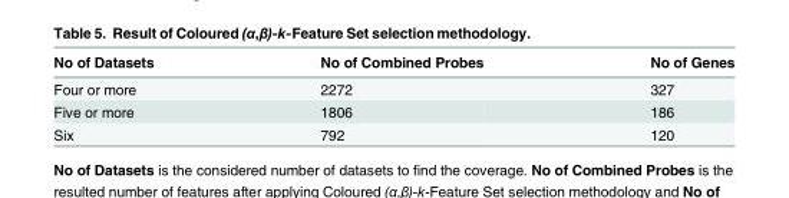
<table><thead><tr><td>No of Datasets</td><td>No of Combined Probes</td><td>No of Genes</td></tr></thead><tbody><tr><td>Four or more</td><td>2272</td><td>327</td></tr><tr><td>Five or more</td><td>1806</td><td>186</td></tr><tr><td>Six</td><td>792</td><td>120</td></tr></tbody></table>